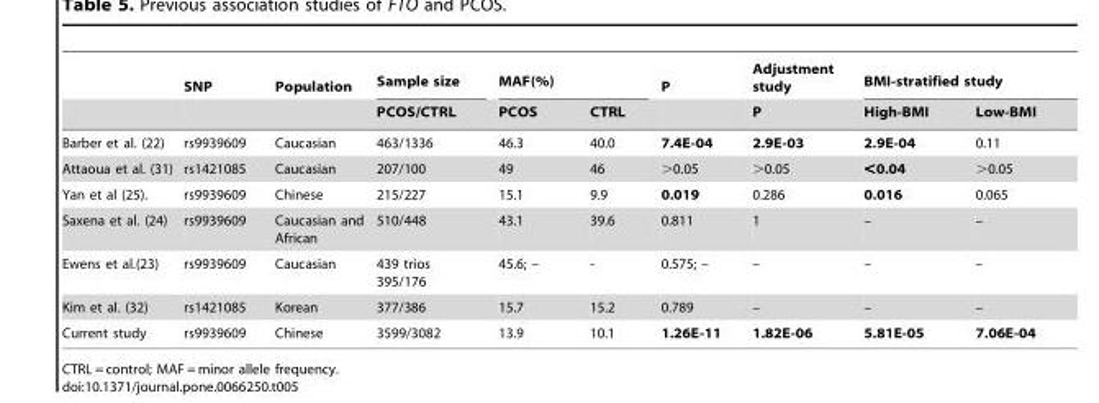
<table><thead><tr><td rowspan="2"></td><td rowspan="2">SNP</td><td rowspan="2">Population</td><td rowspan="2">Sample size PCOS/CTRL</td><td colspan="2">MAF(%)</td><td rowspan="2">P</td><td rowspan="2">Adjustment study P</td><td colspan="2">BMI-stratified study</td></tr><tr><td>PCOS</td><td>CTRL</td><td>High-BMI</td><td>Low-BMI</td></tr></thead><tbody><tr><td>Barber et al. (22)</td><td>rs9939609</td><td>Caucasian</td><td>463/1336</td><td>46.3</td><td>40.0</td><td>7.4E-04</td><td>2.9E-03</td><td>2.9E-04</td><td>0.11</td></tr><tr><td>Attaoua et al. (31)</td><td>rs1421085</td><td>Caucasian</td><td>207/100</td><td>49</td><td>46</td><td>&gt;0.05</td><td>&gt;0.05</td><td>&lt;0.04</td><td>&gt;0.05</td></tr><tr><td>Yan et al (25).</td><td>rs9939609</td><td>Chinese</td><td>215/227</td><td>15.1</td><td>9.9</td><td>0.019</td><td>0.286</td><td>0.016</td><td>0.065</td></tr><tr><td>Saxena et al. (24)</td><td>rs9939609</td><td>Caucasian and African</td><td>510/448</td><td>43.1</td><td>39.6</td><td>0.811</td><td>1</td><td>–</td><td>–</td></tr><tr><td>Ewens et al.(23)</td><td>rs9939609</td><td>Caucasian</td><td>439 trios 395/176</td><td>45.6; –</td><td>-</td><td>0.575; –</td><td>–</td><td>–</td><td>–</td></tr><tr><td>Kim et al. (32)</td><td>rs1421085</td><td>Korean</td><td>377/386</td><td>15.7</td><td>15.2</td><td>0.789</td><td>–</td><td>–</td><td>–</td></tr><tr><td>Current study</td><td>rs9939609</td><td>Chinese</td><td>3599/3082</td><td>13.9</td><td>10.1</td><td>1.26E-11</td><td>1.82E-06</td><td>5.81E-05</td><td>7.06E-04</td></tr></tbody></table>